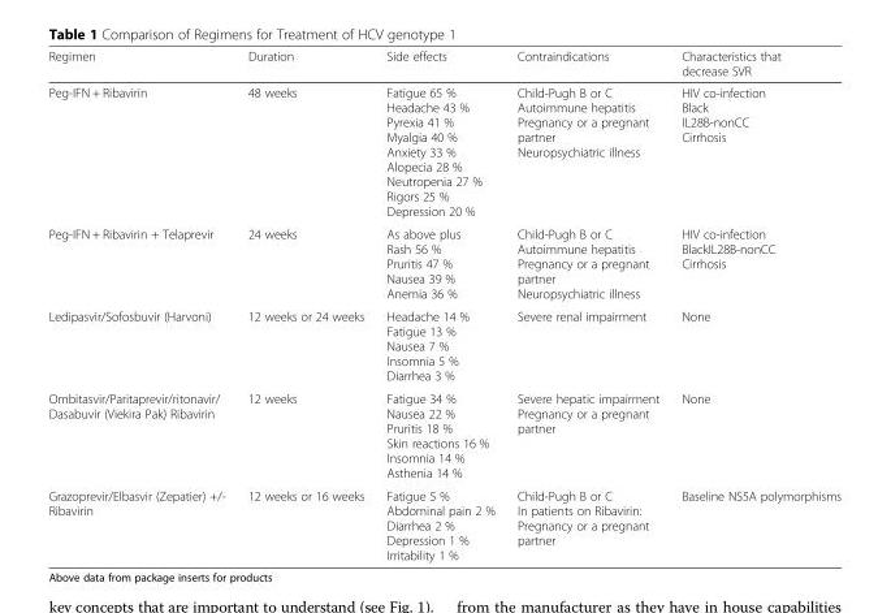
<table><thead><tr><td>Regimen</td><td>Duration</td><td>Side effects</td><td>Contraindications</td><td>Characteristics that decrease SVR</td></tr></thead><tbody><tr><td>Peg-IFN + Ribavirin</td><td>48 weeks</td><td>Fatigue 65 % Headache 43 % Pyrexia 41 % Myalgia 40 % Anxiety 33 % Alopecia 28 % Neutropenia 27 % Rigors 25 % Depression 20 %</td><td>Child-Pugh B or C Autoimmune hepatitis Pregnancy or a pregnant partner Neuropsychiatric illness</td><td>HIV co-infection Black IL28B-nonCC Cirrhosis</td></tr><tr><td>Peg-IFN + Ribavirin + Telaprevir</td><td>24 weeks</td><td>As above plus Rash 56 % Pruritis 47 % Nausea 39 % Anemia 36 %</td><td>Child-Pugh B or C Autoimmune hepatitis Pregnancy or a pregnant partner Neuropsychiatric illness</td><td>HIV co-infection BlackIL28B-nonCC Cirrhosis</td></tr><tr><td>Ledipasvir/Sofosbuvir (Harvoni)</td><td>12 weeks or 24 weeks</td><td>Headache 14 % Fatigue 13 % Nausea 7 % Insomnia 5 % Diarrhea 3 %</td><td>Severe renal impairment</td><td>None</td></tr><tr><td>Ombitasvir/Paritaprevir/ritonavir/ Dasabuvir (Viekira Pak) Ribavirin</td><td>12 weeks</td><td>Fatigue 34 % Nausea 22 % Pruritis 18 % Skin reactions 16 % Insomnia 14 % Asthenia 14 %</td><td>Severe hepatic impairment Pregnancy or a pregnant partner</td><td>None</td></tr><tr><td>Grazoprevir/Elbasvir (Zepatier) +/- Ribavirin</td><td>12 weeks or 16 weeks</td><td>Fatigue 5 % Abdominal pain 2 % Diarrhea 2 % Depression 1 % Irritability 1 %</td><td>Child-Pugh B or C In patients on Ribavirin: Pregnancy or a pregnant partner</td><td>Baseline NS5A polymorphisms</td></tr></tbody></table>